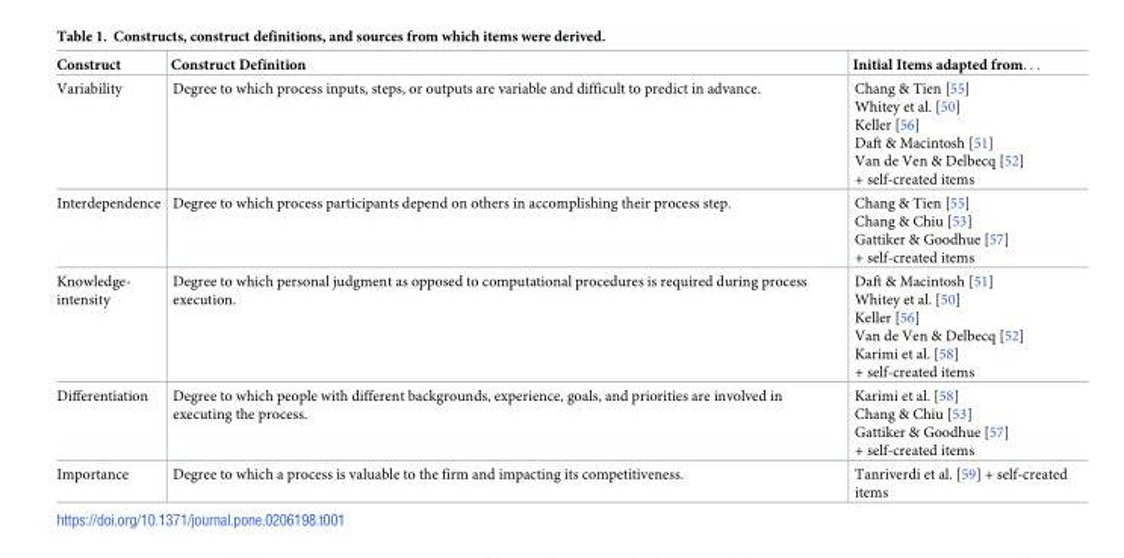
<table><thead><tr><td>Construct</td><td>Construct Definition</td><td>Initial Items adapted from. . .</td></tr></thead><tbody><tr><td>Variability</td><td>Degree to which process inputs, steps, or outputs are variable and difficult to predict in advance.</td><td>Chang &amp; Tien [55] Whitey et al. [50] Keller [56] Daft &amp; Macintosh [51] Van de Ven &amp; Delbecq [52] + self-created items</td></tr><tr><td>Interdependence</td><td>Degree to which process participants depend on others in accomplishing their process step.</td><td>Chang &amp; Tien [55] Chang &amp; Chiu [53] Gattiker &amp; Goodhue [57] + self-created items</td></tr><tr><td>Knowledge- intensity</td><td>Degree to which personal judgment as opposed to computational procedures is required during process execution.</td><td>Daft &amp; Macintosh [51] Whitey et al. [50] Keller [56] Van de Ven &amp; Delbecq [52] Karimi et al. [58] + self-created items</td></tr><tr><td>Differentiation</td><td>Degree to which people with different backgrounds, experience, goals, and priorities are involved in executing the process.</td><td>Karimi et al. [58] Chang &amp; Chiu [53] Gattiker &amp; Goodhue [57] + self-created items</td></tr><tr><td>Importance</td><td>Degree to which a process is valuable to the firm and impacting its competitiveness.</td><td>Tanriverdi et al. [59] + self-created items</td></tr></tbody></table>